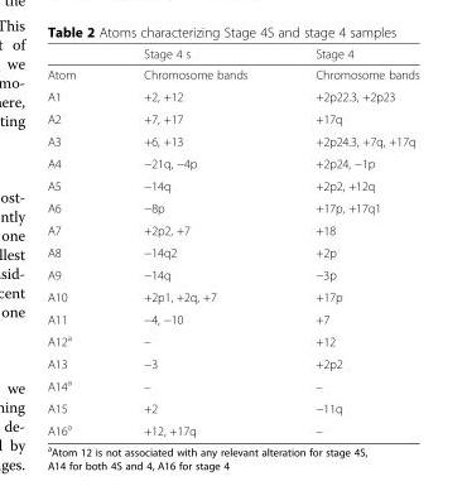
<table><thead><tr><td></td><td>Stage 4 s</td><td>Stage 4</td></tr></thead><tbody><tr><td>Atom</td><td>Chromosome bands</td><td>Chromosome bands</td></tr><tr><td>A1</td><td>+2, +12</td><td>+2p22.3, +2p23</td></tr><tr><td>A2</td><td>+7, +17</td><td>+17q</td></tr><tr><td>A3</td><td>+6, +13</td><td>+2p24.3, +7q, +17q</td></tr><tr><td>A4</td><td>−21q, −4p</td><td>+2p24, −1p</td></tr><tr><td>A5</td><td>−14q</td><td>+2p2, +12q</td></tr><tr><td>A6</td><td>−8p</td><td>+17p, +17q1</td></tr><tr><td>A7</td><td>+2p2, +7</td><td>+18</td></tr><tr><td>A8</td><td>−14q2</td><td>+2p</td></tr><tr><td>A9</td><td>−14q</td><td>−3p</td></tr><tr><td>A10</td><td>+2p1, +2q, +7</td><td>+17p</td></tr><tr><td>A11</td><td>−4, −10</td><td>+7</td></tr><tr><td>A12<sup>a</sup></td><td>–</td><td>+12</td></tr><tr><td>A13</td><td>−3</td><td>+2p2</td></tr><tr><td>A14<sup>a</sup></td><td>–</td><td>–</td></tr><tr><td>A15</td><td>+2</td><td>−11q</td></tr><tr><td>A16<sup>a</sup></td><td>+12, +17q</td><td>–</td></tr></tbody></table>